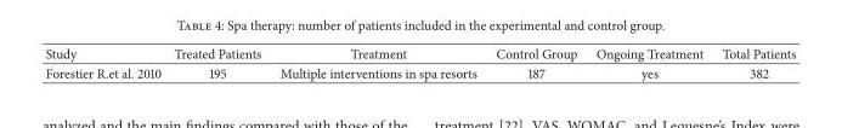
<table><thead><tr><td>Study</td><td>Treated Patients</td><td>Treatment</td><td>Control Group</td><td>Ongoing Treatment</td><td>Total Patients</td></tr></thead><tbody><tr><td>Forestier R.et al. 2010</td><td>195</td><td>Multiple interventions in spa resorts</td><td>187</td><td>yes</td><td>382</td></tr></tbody></table>